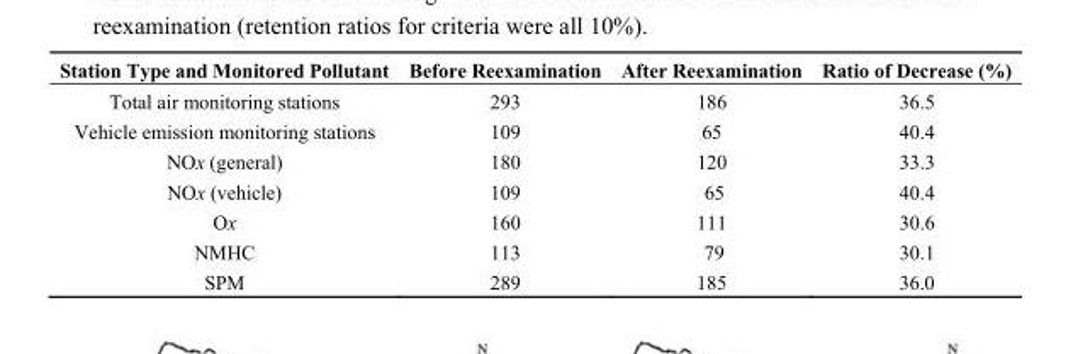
<table><thead><tr><td>Station Type and Monitored Pollutant</td><td>Before Reexamination</td><td>After Reexamination</td><td>Ratio of Decrease (%)</td></tr></thead><tbody><tr><td>Total air monitoring stations</td><td>293</td><td>186</td><td>36.5</td></tr><tr><td>Vehicle emission monitoring stations</td><td>109</td><td>65</td><td>40.4</td></tr><tr><td>NOx (general)</td><td>180</td><td>120</td><td>33.3</td></tr><tr><td>NOx (vehicle)</td><td>109</td><td>65</td><td>40.4</td></tr><tr><td>Ox</td><td>160</td><td>111</td><td>30.6</td></tr><tr><td>NMHC</td><td>113</td><td>79</td><td>30.1</td></tr><tr><td>SPM</td><td>289</td><td>185</td><td>36.0</td></tr></tbody></table>